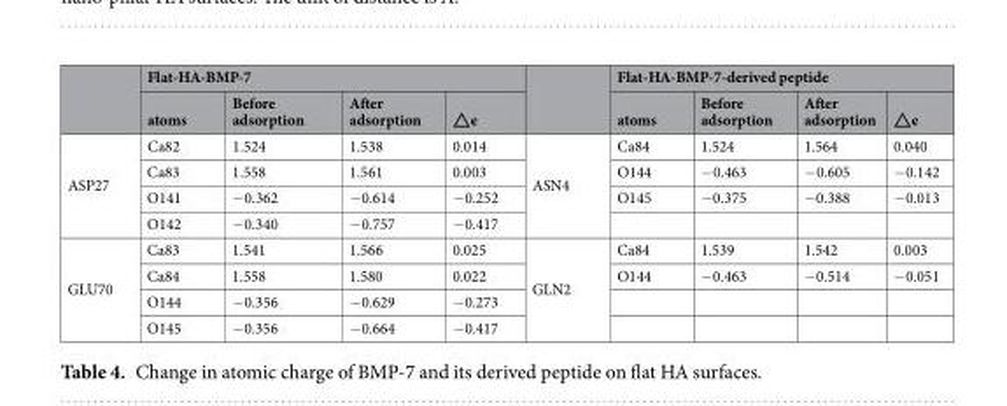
<table><thead><tr><td rowspan="2"></td><td colspan="4">Flat-HA-BMP-7</td><td rowspan="2"></td><td colspan="4">Flat-HA-BMP-7-derived peptide</td></tr><tr><td>atoms</td><td>Before adsorption</td><td>After adsorption</td><td>△e</td><td>atoms</td><td>Before adsorption</td><td>After adsorption</td><td>△e</td></tr></thead><tbody><tr><td rowspan="4">ASP27</td><td>Ca82</td><td>1.524</td><td>1.538</td><td>0.014</td><td rowspan="4">ASN4</td><td>Ca84</td><td>1.524</td><td>1.564</td><td>0.040</td></tr><tr><td>Ca83</td><td>1.558</td><td>1.561</td><td>0.003</td><td>O144</td><td>−0.463</td><td>−0.605</td><td>−0.142</td></tr><tr><td>O141</td><td>−0.362</td><td>−0.614</td><td>−0.252</td><td>O145</td><td>−0.375</td><td>−0.388</td><td>−0.013</td></tr><tr><td>O142</td><td>−0.340</td><td>−0.757</td><td>−0.417</td><td></td><td></td><td></td><td></td></tr><tr><td rowspan="4">GLU70</td><td>Ca83</td><td>1.541</td><td>1.566</td><td>0.025</td><td rowspan="4">GLN2</td><td>Ca84</td><td>1.539</td><td>1.542</td><td>0.003</td></tr><tr><td>Ca84</td><td>1.558</td><td>1.580</td><td>0.022</td><td>O144</td><td>−0.463</td><td>−0.514</td><td>−0.051</td></tr><tr><td>O144</td><td>−0.356</td><td>−0.629</td><td>−0.273</td><td></td><td></td><td></td><td></td></tr><tr><td>O145</td><td>−0.356</td><td>−0.664</td><td>−0.417</td><td></td><td></td><td></td><td></td></tr></tbody></table>